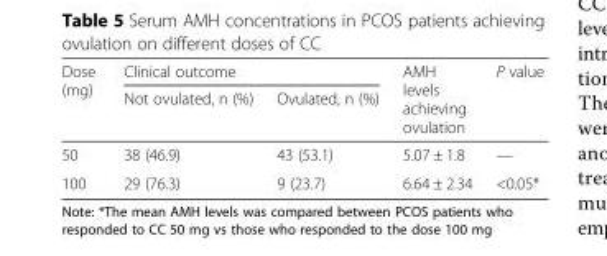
<table><thead><tr><td rowspan="2">Dose (mg)</td><td colspan="2">Clinical outcome</td><td rowspan="2">AMH levels achieving ovulation</td><td rowspan="2">P value</td></tr><tr><td>Not ovulated, n (%)</td><td>Ovulated, n (%)</td></tr></thead><tbody><tr><td>50</td><td>38 (46.9)</td><td>43 (53.1)</td><td>5.07 ± 1.8</td><td>—</td></tr><tr><td>100</td><td>29 (76.3)</td><td>9 (23.7)</td><td>6.64 ± 2.34</td><td>&lt;0.05*</td></tr></tbody></table>